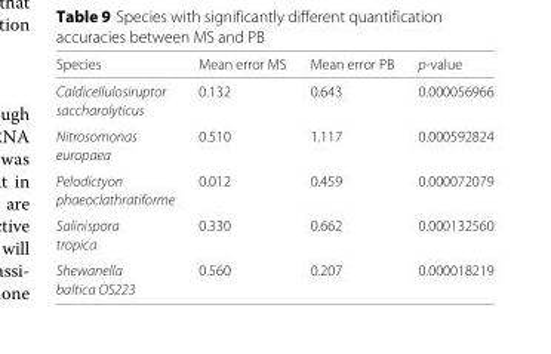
<table><thead><tr><td>Species</td><td>Mean error MS</td><td>Mean error PB</td><td>p-value</td></tr></thead><tbody><tr><td>Caldicellulosiruptor</td><td>0.132</td><td>0.643</td><td>0.000056966</td></tr><tr><td colspan="4">saccharolyticus</td></tr><tr><td>Nitrosomonas</td><td>0.510</td><td>1.117</td><td>0.000592824</td></tr><tr><td colspan="4">europaea</td></tr><tr><td>Pelodictyon</td><td>0.012</td><td>0.459</td><td>0.000072079</td></tr><tr><td colspan="4">phaeoclathratiforme</td></tr><tr><td>Salinispora</td><td>0.330</td><td>0.662</td><td>0.000132560</td></tr><tr><td colspan="4">tropica</td></tr><tr><td>Shewanella</td><td>0.560</td><td>0.207</td><td>0.000018219</td></tr><tr><td>baltica OS223</td><td></td><td></td><td></td></tr></tbody></table>